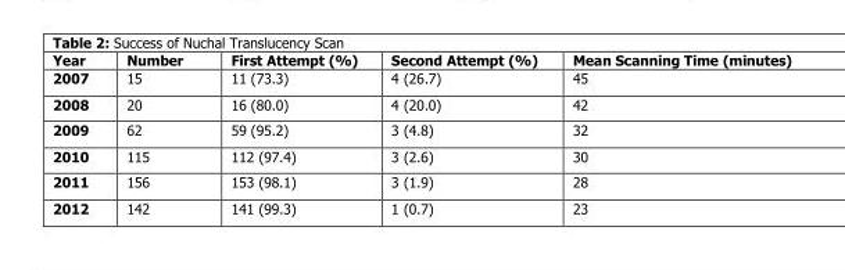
<table><thead><tr><td>Year</td><td>Number</td><td>First Attempt (%)</td><td>Second Attempt (%)</td><td>Mean Scanning Time (minutes)</td></tr></thead><tbody><tr><td>2007</td><td>15</td><td>11 (73.3)</td><td>4 (26.7)</td><td>45</td></tr><tr><td>2008</td><td>20</td><td>16 (80.0)</td><td>4 (20.0)</td><td>42</td></tr><tr><td>2009</td><td>62</td><td>59 (95.2)</td><td>3 (4.8)</td><td>32</td></tr><tr><td>2010</td><td>115</td><td>112 (97.4)</td><td>3 (2.6)</td><td>30</td></tr><tr><td>2011</td><td>156</td><td>153 (98.1)</td><td>3 (1.9)</td><td>28</td></tr><tr><td>2012</td><td>142</td><td>141 (99.3)</td><td>1 (0.7)</td><td>23</td></tr></tbody></table>